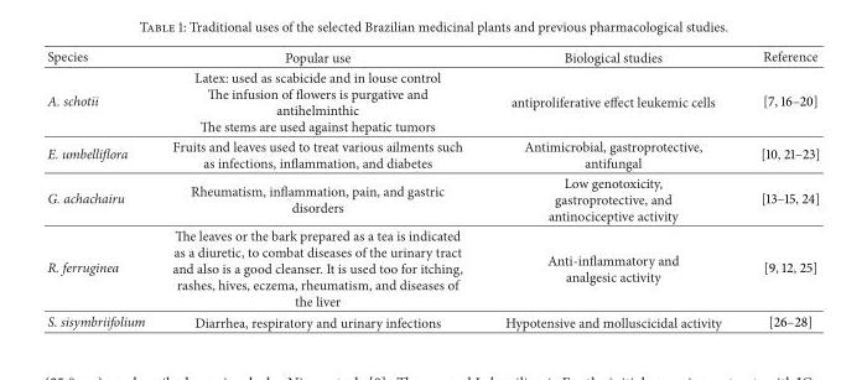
<table><thead><tr><td>Species</td><td>Popular use</td><td>Biological studies</td><td>Reference</td></tr></thead><tbody><tr><td>A. schotii</td><td>Latex: used as scabicide and in louse control The infusion of flowers is purgative and antihelminthic The stems are used against hepatic tumors</td><td>antiproliferative effect leukemic cells</td><td>[7, 16–20]</td></tr><tr><td>E. umbelliflora</td><td>Fruits and leaves used to treat various ailments such as infections, inflammation, and diabetes</td><td>Antimicrobial, gastroprotective, antifungal</td><td>[10, 21–23]</td></tr><tr><td>G. achachairu</td><td>Rheumatism, inflammation, pain, and gastric disorders</td><td>Low genotoxicity, gastroprotective, and antinociceptive activity</td><td>[13–15, 24]</td></tr><tr><td>R. ferruginea</td><td>The leaves or the bark prepared as a tea is indicated as a diuretic, to combat diseases of the urinary tract and also is a good cleanser. It is used too for itching, rashes, hives, eczema, rheumatism, and diseases of the liver</td><td>Anti-inflammatory and analgesic activity</td><td>[9, 12, 25]</td></tr><tr><td>S. sisymbriifolium</td><td>Diarrhea, respiratory and urinary infections</td><td>Hypotensive and molluscicidal activity</td><td>[26–28]</td></tr></tbody></table>